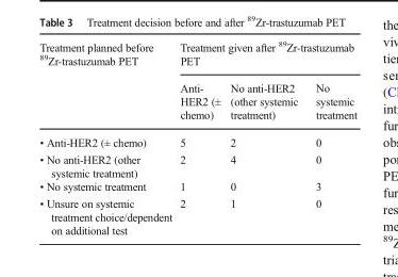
<table><thead><tr><td rowspan="2">Treatment planned before <sup>89</sup>Zr-trastuzumab PET</td><td colspan="3">Treatment given after <sup>89</sup>Zr-trastuzumab PET</td></tr><tr><td>Anti- HER2 (± chemo)</td><td>No anti-HER2 (other systemic treatment)</td><td>No systemic treatment</td></tr></thead><tbody><tr><td>• Anti-HER2 (± chemo)</td><td>5</td><td>2</td><td>0</td></tr><tr><td>• No anti-HER2 (other systemic treatment)</td><td>2</td><td>4</td><td>0</td></tr><tr><td>• No systemic treatment</td><td>1</td><td>0</td><td>3</td></tr><tr><td>• Unsure on systemic treatment choice/dependent on additional test</td><td>2</td><td>1</td><td>0</td></tr></tbody></table>